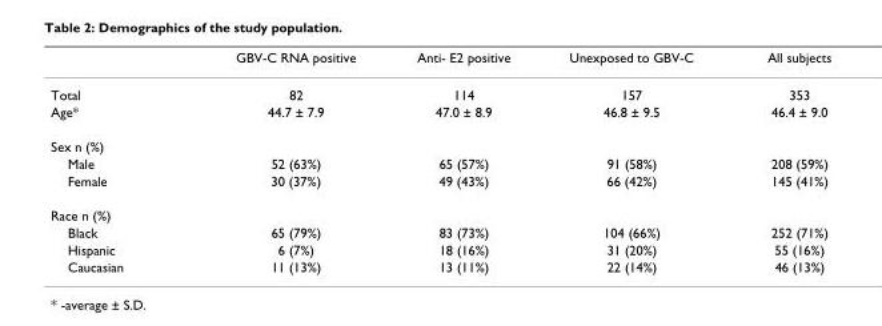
<table><thead><tr><td></td><td>GBV-C RNA positive</td><td>Anti- E2 positive</td><td>Unexposed to GBV-C</td><td>All subjects</td></tr></thead><tbody><tr><td>Total</td><td>82</td><td>114</td><td>157</td><td>353</td></tr><tr><td>Age*</td><td>44.7 ± 7.9</td><td>47.0 ± 8.9</td><td>46.8 ± 9.5</td><td>46.4 ± 9.0</td></tr><tr><td colspan="5">Sex n (%)</td></tr><tr><td>Male</td><td>52 (63%)</td><td>65 (57%)</td><td>91 (58%)</td><td>208 (59%)</td></tr><tr><td>Female</td><td>30 (37%)</td><td>49 (43%)</td><td>66 (42%)</td><td>145 (41%)</td></tr><tr><td colspan="5">Race n (%)</td></tr><tr><td>Black</td><td>65 (79%)</td><td>83 (73%)</td><td>104 (66%)</td><td>252 (71%)</td></tr><tr><td>Hispanic</td><td>6 (7%)</td><td>18 (16%)</td><td>31 (20%)</td><td>55 (16%)</td></tr><tr><td>Caucasian</td><td>11 (13%)</td><td>13 (11%)</td><td>22 (14%)</td><td>46 (13%)</td></tr></tbody></table>